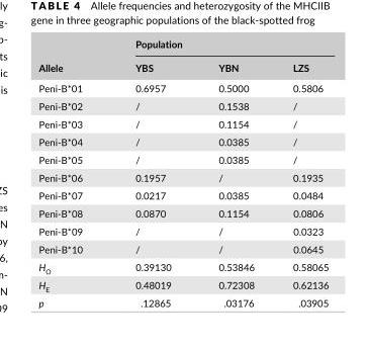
<table><thead><tr><td rowspan="2">Allele</td><td colspan="3">Population</td></tr><tr><td>YBS</td><td>YBN</td><td>LZS</td></tr></thead><tbody><tr><td>Peni- B*01</td><td>0.6957</td><td>0.5000</td><td>0.5806</td></tr><tr><td>Peni- B*02</td><td>/</td><td>0.1538</td><td>/</td></tr><tr><td>Peni- B*03</td><td>/</td><td>0.1154</td><td>/</td></tr><tr><td>Peni- B*04</td><td>/</td><td>0.0385</td><td>/</td></tr><tr><td>Peni- B*05</td><td>/</td><td>0.0385</td><td>/</td></tr><tr><td>Peni- B*06</td><td>0.1957</td><td>/</td><td>0.1935</td></tr><tr><td>Peni- B*07</td><td>0.0217</td><td>0.0385</td><td>0.0484</td></tr><tr><td>Peni- B*08</td><td>0.0870</td><td>0.1154</td><td>0.0806</td></tr><tr><td>Peni- B*09</td><td>/</td><td>/</td><td>0.0323</td></tr><tr><td>Peni- B*10</td><td>/</td><td>/</td><td>0.0645</td></tr><tr><td>H<sub>O</sub></td><td>0.39130</td><td>0.53846</td><td>0.58065</td></tr><tr><td>H<sub>E</sub></td><td>0.48019</td><td>0.72308</td><td>0.62136</td></tr><tr><td>p</td><td>.12865</td><td>.03176</td><td>.03905</td></tr></tbody></table>